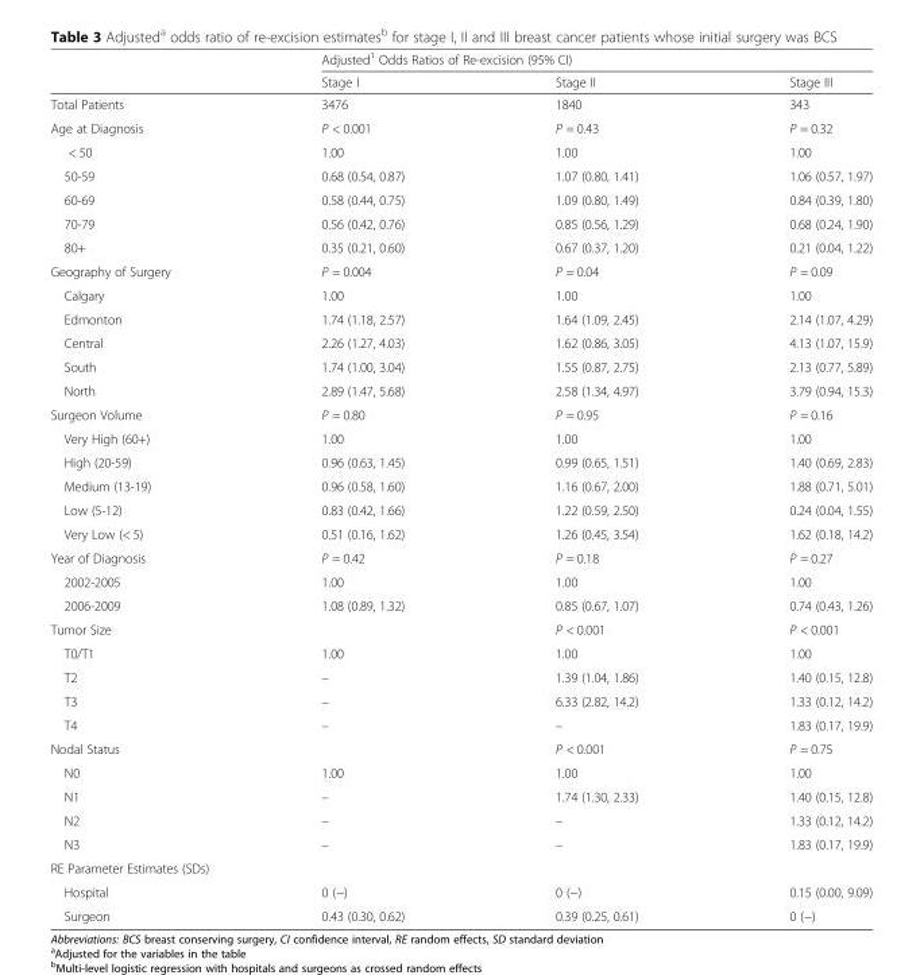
<table><thead><tr><td rowspan="2"></td><td colspan="3">Adjusted<sup>1</sup> Odds Ratios of Re-excision (95% CI)</td></tr><tr><td>Stage I</td><td>Stage II</td><td>Stage III</td></tr></thead><tbody><tr><td>Total Patients</td><td>3476</td><td>1840</td><td>343</td></tr><tr><td>Age at Diagnosis</td><td>P &lt; 0.001</td><td>P = 0.43</td><td>P = 0.32</td></tr><tr><td>&lt; 50</td><td>1.00</td><td>1.00</td><td>1.00</td></tr><tr><td>50-59</td><td>0.68 (0.54, 0.87)</td><td>1.07 (0.80, 1.41)</td><td>1.06 (0.57, 1.97)</td></tr><tr><td>60-69</td><td>0.58 (0.44, 0.75)</td><td>1.09 (0.80, 1.49)</td><td>0.84 (0.39, 1.80)</td></tr><tr><td>70-79</td><td>0.56 (0.42, 0.76)</td><td>0.85 (0.56, 1.29)</td><td>0.68 (0.24, 1.90)</td></tr><tr><td>80+</td><td>0.35 (0.21, 0.60)</td><td>0.67 (0.37, 1.20)</td><td>0.21 (0.04, 1.22)</td></tr><tr><td>Geography of Surgery</td><td>P = 0.004</td><td>P = 0.04</td><td>P = 0.09</td></tr><tr><td>Calgary</td><td>1.00</td><td>1.00</td><td>1.00</td></tr><tr><td>Edmonton</td><td>1.74 (1.18, 2.57)</td><td>1.64 (1.09, 2.45)</td><td>2.14 (1.07, 4.29)</td></tr><tr><td>Central</td><td>2.26 (1.27, 4.03)</td><td>1.62 (0.86, 3.05)</td><td>4.13 (1.07, 15.9)</td></tr><tr><td>South</td><td>1.74 (1.00, 3.04)</td><td>1.55 (0.87, 2.75)</td><td>2.13 (0.77, 5.89)</td></tr><tr><td>North</td><td>2.89 (1.47, 5.68)</td><td>2.58 (1.34, 4.97)</td><td>3.79 (0.94, 15.3)</td></tr><tr><td>Surgeon Volume</td><td>P = 0.80</td><td>P = 0.95</td><td>P = 0.16</td></tr><tr><td>Very High (60+)</td><td>1.00</td><td>1.00</td><td>1.00</td></tr><tr><td>High (20-59)</td><td>0.96 (0.63, 1.45)</td><td>0.99 (0.65, 1.51)</td><td>1.40 (0.69, 2.83)</td></tr><tr><td>Medium (13-19)</td><td>0.96 (0.58, 1.60)</td><td>1.16 (0.67, 2.00)</td><td>1.88 (0.71, 5.01)</td></tr><tr><td>Low (5-12)</td><td>0.83 (0.42, 1.66)</td><td>1.22 (0.59, 2.50)</td><td>0.24 (0.04, 1.55)</td></tr><tr><td>Very Low (&lt; 5)</td><td>0.51 (0.16, 1.62)</td><td>1.26 (0.45, 3.54)</td><td>1.62 (0.18, 14.2)</td></tr><tr><td>Year of Diagnosis</td><td>P = 0.42</td><td>P = 0.18</td><td>P = 0.27</td></tr><tr><td>2002-2005</td><td>1.00</td><td>1.00</td><td>1.00</td></tr><tr><td>2006-2009</td><td>1.08 (0.89, 1.32)</td><td>0.85 (0.67, 1.07)</td><td>0.74 (0.43, 1.26)</td></tr><tr><td>Tumor Size</td><td></td><td>P &lt; 0.001</td><td>P &lt; 0.001</td></tr><tr><td>T0/T1</td><td>1.00</td><td>1.00</td><td>1.00</td></tr><tr><td>T2</td><td>–</td><td>1.39 (1.04, 1.86)</td><td>1.40 (0.15, 12.8)</td></tr><tr><td>T3</td><td>–</td><td>6.33 (2.82, 14.2)</td><td>1.33 (0.12, 14.2)</td></tr><tr><td>T4</td><td>–</td><td>–</td><td>1.83 (0.17, 19.9)</td></tr><tr><td>Nodal Status</td><td></td><td>P &lt; 0.001</td><td>P = 0.75</td></tr><tr><td>N0</td><td>1.00</td><td>1.00</td><td>1.00</td></tr><tr><td>N1</td><td>–</td><td>1.74 (1.30, 2.33)</td><td>1.40 (0.15, 12.8)</td></tr><tr><td>N2</td><td>–</td><td>–</td><td>1.33 (0.12, 14.2)</td></tr><tr><td>N3</td><td>–</td><td>–</td><td>1.83 (0.17, 19.9)</td></tr><tr><td colspan="4">RE Parameter Estimates (SDs)</td></tr><tr><td>Hospital</td><td>0 (−)</td><td>0 (−)</td><td>0.15 (0.00, 9.09)</td></tr><tr><td>Surgeon</td><td>0.43 (0.30, 0.62)</td><td>0.39 (0.25, 0.61)</td><td>0 (−)</td></tr></tbody></table>